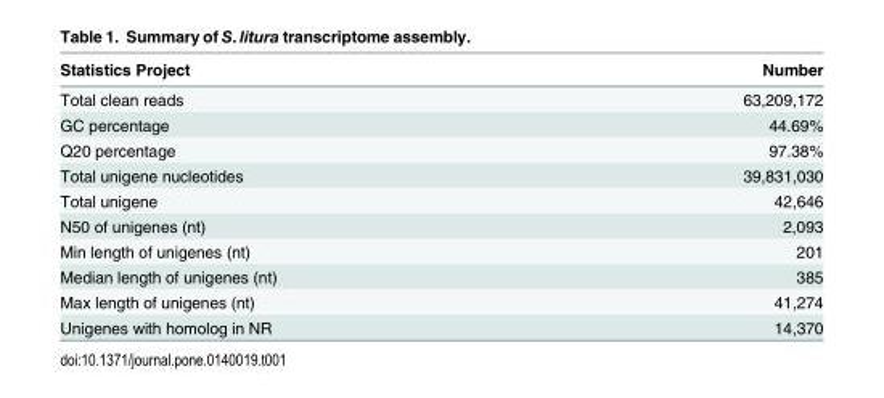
<table><thead><tr><td>Statistics Project</td><td>Number</td></tr></thead><tbody><tr><td>Total clean reads</td><td>63,209,172</td></tr><tr><td>GC percentage</td><td>44.69%</td></tr><tr><td>Q20 percentage</td><td>97.38%</td></tr><tr><td>Total unigene nucleotides</td><td>39,831,030</td></tr><tr><td>Total unigene</td><td>42,646</td></tr><tr><td>N50 of unigenes (nt)</td><td>2,093</td></tr><tr><td>Min length of unigenes (nt)</td><td>201</td></tr><tr><td>Median length of unigenes (nt)</td><td>385</td></tr><tr><td>Max length of unigenes (nt)</td><td>41,274</td></tr><tr><td>Unigenes with homolog in NR</td><td>14,370</td></tr></tbody></table>